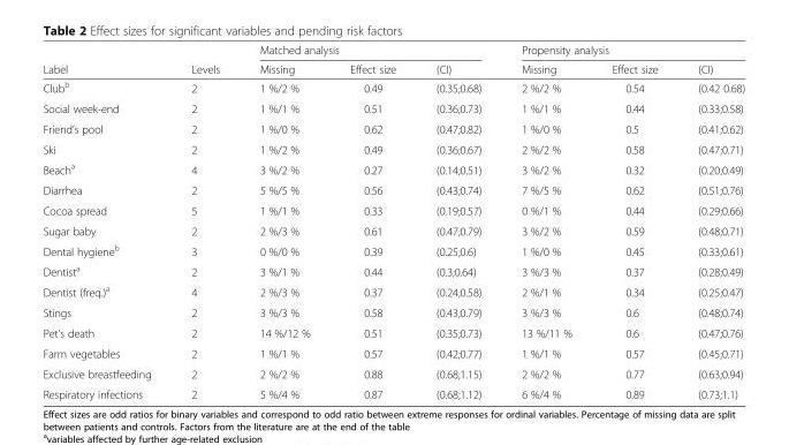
<table><thead><tr><td rowspan="2">Label</td><td rowspan="2">Levels</td><td colspan="3">Matched analysis</td><td colspan="3">Propensity analysis</td></tr><tr><td>Missing</td><td>Effect size</td><td>(CI)</td><td>Missing</td><td>Effect size</td><td>(CI)</td></tr></thead><tbody><tr><td>Club<sup>b</sup></td><td>2</td><td>1 %/2 %</td><td>0.49</td><td>(0.35;0.68)</td><td>2 %/2 %</td><td>0.54</td><td>(0.42 0.68)</td></tr><tr><td>Social week-end</td><td>2</td><td>1 %/1 %</td><td>0.51</td><td>(0.36;0.73)</td><td>1 %/1 %</td><td>0.44</td><td>(0.33;0.58)</td></tr><tr><td>Friend’s pool</td><td>2</td><td>1 %/0 %</td><td>0.62</td><td>(0.47;0.82)</td><td>1 %/0 %</td><td>0.5</td><td>(0.41;0.62)</td></tr><tr><td>Ski</td><td>2</td><td>1 %/2 %</td><td>0.49</td><td>(0.36;0.67)</td><td>2 %/2 %</td><td>0.58</td><td>(0.47;0.71)</td></tr><tr><td>Beach<sup>a</sup></td><td>4</td><td>3 %/2 %</td><td>0.27</td><td>(0.14;0.51)</td><td>3 %/2 %</td><td>0.32</td><td>(0.20;0.49)</td></tr><tr><td>Diarrhea</td><td>2</td><td>5 %/5 %</td><td>0.56</td><td>(0.43;0.74)</td><td>7 %/5 %</td><td>0.62</td><td>(0.51;0.76)</td></tr><tr><td>Cocoa spread</td><td>5</td><td>1 %/1 %</td><td>0.33</td><td>(0.19;0.57)</td><td>0 %/1 %</td><td>0.44</td><td>(0.29;0.66)</td></tr><tr><td>Sugar baby</td><td>2</td><td>2 %/3 %</td><td>0.61</td><td>(0.47;0.79)</td><td>3 %/2 %</td><td>0.59</td><td>(0.48;0.71)</td></tr><tr><td>Dental hygiene<sup>b</sup></td><td>3</td><td>0 %/0 %</td><td>0.39</td><td>(0.25;0.6)</td><td>1 %/0 %</td><td>0.45</td><td>(0.33;0.61)</td></tr><tr><td>Dentist<sup>a</sup></td><td>2</td><td>3 %/1 %</td><td>0.44</td><td>(0.3;0.64)</td><td>3 %/3 %</td><td>0.37</td><td>(0.28;0.49)</td></tr><tr><td>Dentist (freq.)<sup>a</sup></td><td>4</td><td>2 %/3 %</td><td>0.37</td><td>(0.24;0.58)</td><td>2 %/1 %</td><td>0.34</td><td>(0.25;0.47)</td></tr><tr><td>Stings</td><td>2</td><td>3 %/3 %</td><td>0.58</td><td>(0.43;0.79)</td><td>3 %/3 %</td><td>0.6</td><td>(0.48;0.74)</td></tr><tr><td>Pet’s death</td><td>2</td><td>14 %/12 %</td><td>0.51</td><td>(0.35;0.73)</td><td>13 %/11 %</td><td>0.6</td><td>(0.47;0.76)</td></tr><tr><td>Farm vegetables</td><td>2</td><td>1 %/1 %</td><td>0.57</td><td>(0.42;0.77)</td><td>1 %/1 %</td><td>0.57</td><td>(0.45;0.71)</td></tr><tr><td>Exclusive breastfeeding</td><td>2</td><td>2 %/2 %</td><td>0.88</td><td>(0.68;1.15)</td><td>2 %/2 %</td><td>0.77</td><td>(0.63;0.94)</td></tr><tr><td>Respiratory infections</td><td>2</td><td>5 %/4 %</td><td>0.87</td><td>(0.68;1.12)</td><td>6 %/4 %</td><td>0.89</td><td>(0.73;1.1)</td></tr></tbody></table>